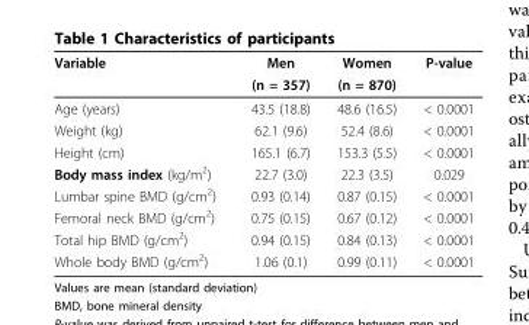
<table><thead><tr><td rowspan="2">Variable</td><td rowspan="2">Men (n = 357)</td><td rowspan="2">Women (n = 870)</td><td rowspan="2">P-value</td></tr><tr></tr></thead><tbody><tr><td>Age (years)</td><td>43.5 (18.8)</td><td>48.6 (16.5)</td><td>&lt; 0.0001</td></tr><tr><td>Weight (kg)</td><td>62.1 (9.6)</td><td>52.4 (8.6)</td><td>&lt; 0.0001</td></tr><tr><td>Height (cm)</td><td>165.1 (6.7)</td><td>153.3 (5.5)</td><td>&lt; 0.0001</td></tr><tr><td>Body mass index (kg/m<sup>2</sup>)</td><td>22.7 (3.0)</td><td>22.3 (3.5)</td><td>0.029</td></tr><tr><td>Lumbar spine BMD (g/cm<sup>2</sup>)</td><td>0.93 (0.14)</td><td>0.87 (0.15)</td><td>&lt; 0.0001</td></tr><tr><td>Femoral neck BMD (g/cm<sup>2</sup>)</td><td>0.75 (0.15)</td><td>0.67 (0.12)</td><td>&lt; 0.0001</td></tr><tr><td>Total hip BMD (g/cm<sup>2</sup>)</td><td>0.94 (0.15)</td><td>0.84 (0.13)</td><td>&lt; 0.0001</td></tr><tr><td>Whole body BMD (g/cm<sup>2</sup>)</td><td>1.06 (0.1)</td><td>0.99 (0.11)</td><td>&lt; 0.0001</td></tr></tbody></table>